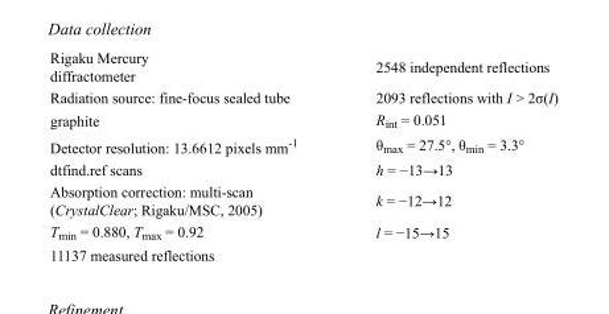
<table><tbody><tr><td>Rigaku Mercury diffractometer</td><td>2548 independent reflections</td></tr><tr><td>Radiation source: fine-focus sealed tube</td><td>2093 reflections with I &gt; 2σ(I)</td></tr><tr><td>graphite</td><td>R<sub>int</sub> = 0.051</td></tr><tr><td>Detector resolution: 13.6612 pixels mm<sup>-1</sup></td><td>θ<sub>max</sub> = 27.5°, θ<sub>min</sub> = 3.3°</td></tr><tr><td>dtfind.ref scans</td><td>h = −13→13</td></tr><tr><td>Absorption correction: multi-scan (CrystalClear; Rigaku/MSC, 2005)</td><td>k = −12→12</td></tr><tr><td>T<sub>min</sub> = 0.880, T<sub>max</sub> = 0.92</td><td>l = −15→15</td></tr><tr><td>11137 measured reflections</td><td></td></tr></tbody></table>